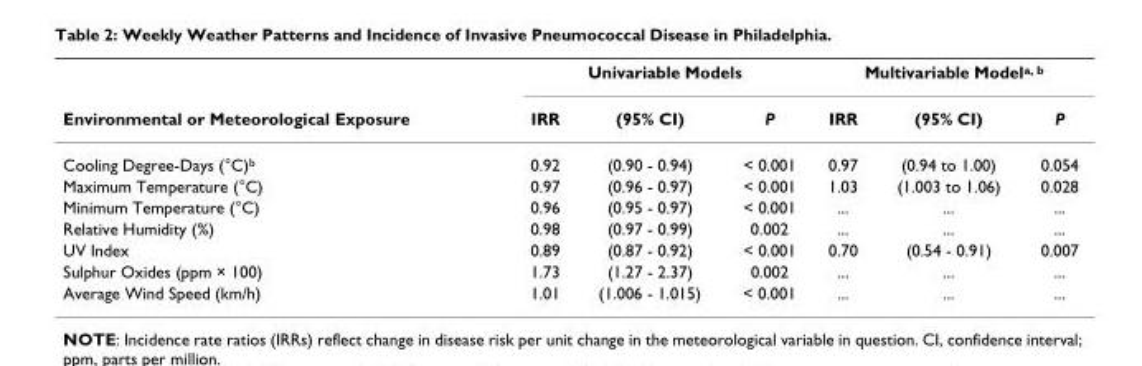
<table><thead><tr><td rowspan="2">Environmental or Meteorological Exposure</td><td colspan="3">Univariable Models</td><td colspan="3">Multivariable Model<sup>a, b</sup></td></tr><tr><td>IRR</td><td>(95% CI)</td><td>P</td><td>IRR</td><td>(95% CI)</td><td>P</td></tr></thead><tbody><tr><td>Cooling Degree-Days (°C)<sup>b</sup></td><td>0.92</td><td>(0.90 - 0.94)</td><td>&lt; 0.001</td><td>0.97</td><td>(0.94 to 1.00)</td><td>0.054</td></tr><tr><td>Maximum Temperature (°C)</td><td>0.97</td><td>(0.96 - 0.97)</td><td>&lt; 0.001</td><td>1.03</td><td>(1.003 to 1.06)</td><td>0.028</td></tr><tr><td>Minimum Temperature (°C)</td><td>0.96</td><td>(0.95 - 0.97)</td><td>&lt; 0.001</td><td>...</td><td>...</td><td>...</td></tr><tr><td>Relative Humidity (%)</td><td>0.98</td><td>(0.97 - 0.99)</td><td>0.002</td><td>...</td><td>...</td><td>...</td></tr><tr><td>UV Index</td><td>0.89</td><td>(0.87 - 0.92)</td><td>&lt; 0.001</td><td>0.70</td><td>(0.54 - 0.91)</td><td>0.007</td></tr><tr><td>Sulphur Oxides (ppm × 100)</td><td>1.73</td><td>(1.27 - 2.37)</td><td>0.002</td><td>...</td><td>...</td><td>...</td></tr><tr><td>Average Wind Speed (km/h)</td><td>1.01</td><td>(1.006 - 1.015)</td><td>&lt; 0.001</td><td>...</td><td>...</td><td>...</td></tr></tbody></table>